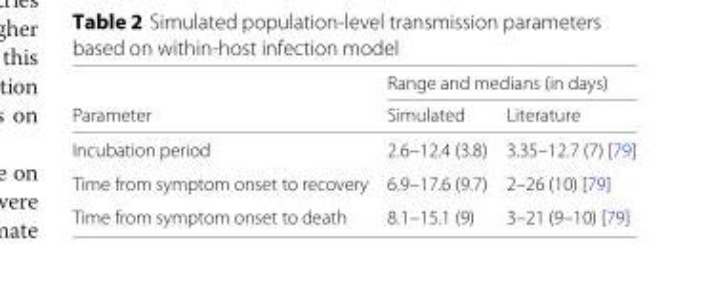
<table><thead><tr><td rowspan="2">Parameter</td><td colspan="2">Range and medians (in days)</td></tr><tr><td>Simulated</td><td>Literature</td></tr></thead><tbody><tr><td>Incubation period</td><td>2.6–12.4 (3.8)</td><td>3.35–12.7 (7) [79]</td></tr><tr><td>Time from symptom onset to recovery</td><td>6.9–17.6 (9.7)</td><td>2–26 (10) [79]</td></tr><tr><td>Time from symptom onset to death</td><td>8.1–15.1 (9)</td><td>3–21 (9–10) [79]</td></tr></tbody></table>